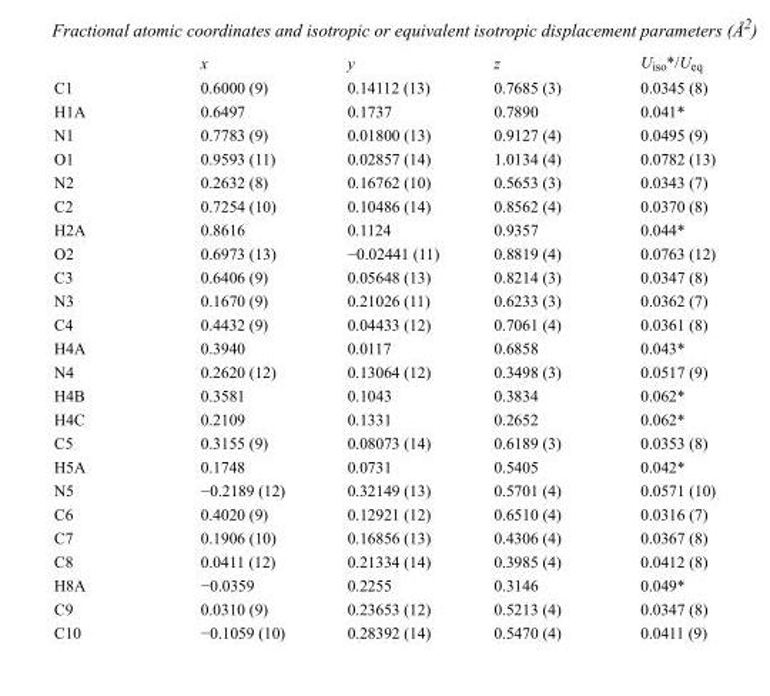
<table><thead><tr><td></td><td>x</td><td>y</td><td>z</td><td>U<sub>iso</sub>*/U<sub>eq</sub></td></tr></thead><tbody><tr><td>C1</td><td>0.6000 (9)</td><td>0.14112 (13)</td><td>0.7685 (3)</td><td>0.0345 (8)</td></tr><tr><td>H1A</td><td>0.6497</td><td>0.1737</td><td>0.7890</td><td>0.041*</td></tr><tr><td>N1</td><td>0.7783 (9)</td><td>0.01800 (13)</td><td>0.9127 (4)</td><td>0.0495 (9)</td></tr><tr><td>O1</td><td>0.9593 (11)</td><td>0.02857 (14)</td><td>1.0134 (4)</td><td>0.0782 (13)</td></tr><tr><td>N2</td><td>0.2632 (8)</td><td>0.16762 (10)</td><td>0.5653 (3)</td><td>0.0343 (7)</td></tr><tr><td>C2</td><td>0.7254 (10)</td><td>0.10486 (14)</td><td>0.8562 (4)</td><td>0.0370 (8)</td></tr><tr><td>H2A</td><td>0.8616</td><td>0.1124</td><td>0.9357</td><td>0.044*</td></tr><tr><td>O2</td><td>0.6973 (13)</td><td>−0.02441 (11)</td><td>0.8819 (4)</td><td>0.0763 (12)</td></tr><tr><td>C3</td><td>0.6406 (9)</td><td>0.05648 (13)</td><td>0.8214 (3)</td><td>0.0347 (8)</td></tr><tr><td>N3</td><td>0.1670 (9)</td><td>0.21026 (11)</td><td>0.6233 (3)</td><td>0.0362 (7)</td></tr><tr><td>C4</td><td>0.4432 (9)</td><td>0.04433 (12)</td><td>0.7061 (4)</td><td>0.0361 (8)</td></tr><tr><td>H4A</td><td>0.3940</td><td>0.0117</td><td>0.6858</td><td>0.043*</td></tr><tr><td>N4</td><td>0.2620 (12)</td><td>0.13064 (12)</td><td>0.3498 (3)</td><td>0.0517 (9)</td></tr><tr><td>H4B</td><td>0.3581</td><td>0.1043</td><td>0.3834</td><td>0.062*</td></tr><tr><td>H4C</td><td>0.2109</td><td>0.1331</td><td>0.2652</td><td>0.062*</td></tr><tr><td>C5</td><td>0.3155 (9)</td><td>0.08073 (14)</td><td>0.6189 (3)</td><td>0.0353 (8)</td></tr><tr><td>H5A</td><td>0.1748</td><td>0.0731</td><td>0.5405</td><td>0.042*</td></tr><tr><td>N5</td><td>−0.2189 (12)</td><td>0.32149 (13)</td><td>0.5701 (4)</td><td>0.0571 (10)</td></tr><tr><td>C6</td><td>0.4020 (9)</td><td>0.12921 (12)</td><td>0.6510 (4)</td><td>0.0316 (7)</td></tr><tr><td>C7</td><td>0.1906 (10)</td><td>0.16856 (13)</td><td>0.4306 (4)</td><td>0.0367 (8)</td></tr><tr><td>C8</td><td>0.0411 (12)</td><td>0.21334 (14)</td><td>0.3985 (4)</td><td>0.0412 (8)</td></tr><tr><td>H8A</td><td>−0.0359</td><td>0.2255</td><td>0.3146</td><td>0.049*</td></tr><tr><td>C9</td><td>0.0310 (9)</td><td>0.23653 (12)</td><td>0.5213 (4)</td><td>0.0347 (8)</td></tr><tr><td>C10</td><td>−0.1059 (10)</td><td>0.28392 (14)</td><td>0.5470 (4)</td><td>0.0411 (9)</td></tr></tbody></table>